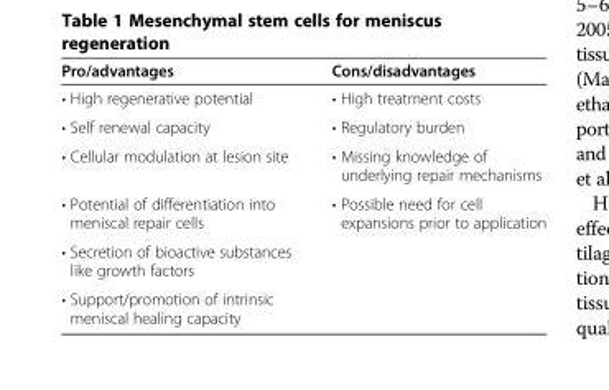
<table><thead><tr><td>Pro/advantages</td><td>Cons/disadvantages</td></tr></thead><tbody><tr><td>• High regenerative potential</td><td>• High treatment costs</td></tr><tr><td>• Self renewal capacity</td><td>• Regulatory burden</td></tr><tr><td>• Cellular modulation at lesion site</td><td>• Missing knowledge of underlying repair mechanisms</td></tr><tr><td>• Potential of differentiation into meniscal repair cells</td><td rowspan="3">• Possible need for cell expansions prior to application</td></tr><tr><td>• Secretion of bioactive substances like growth factors</td></tr><tr><td>• Support/promotion of intrinsic meniscal healing capacity</td></tr></tbody></table>